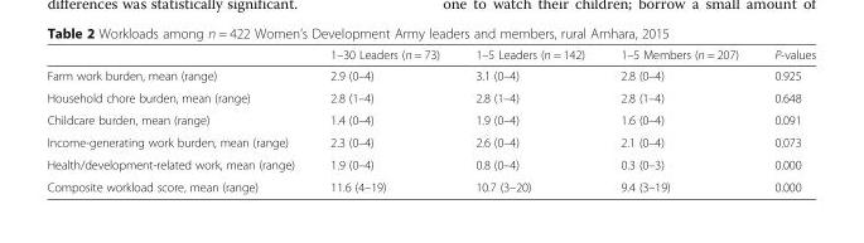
<table><thead><tr><td></td><td>1–30 Leaders (n = 73)</td><td>1–5 Leaders (n = 142)</td><td>1–5 Members (n = 207)</td><td>P-values</td></tr></thead><tbody><tr><td>Farm work burden, mean (range)</td><td>2.9 (0–4)</td><td>3.1 (0–4)</td><td>2.8 (0–4)</td><td>0.925</td></tr><tr><td>Household chore burden, mean (range)</td><td>2.8 (1–4)</td><td>2.8 (1–4)</td><td>2.8 (1–4)</td><td>0.648</td></tr><tr><td>Childcare burden, mean (range)</td><td>1.4 (0–4)</td><td>1.9 (0–4)</td><td>1.6 (0–4)</td><td>0.091</td></tr><tr><td>Income-generating work burden, mean (range)</td><td>2.3 (0–4)</td><td>2.6 (0–4)</td><td>2.1 (0–4)</td><td>0.073</td></tr><tr><td>Health/development-related work, mean (range)</td><td>1.9 (0–4)</td><td>0.8 (0–4)</td><td>0.3 (0–3)</td><td>0.000</td></tr><tr><td>Composite workload score, mean (range)</td><td>11.6 (4–19)</td><td>10.7 (3–20)</td><td>9.4 (3–19)</td><td>0.000</td></tr></tbody></table>